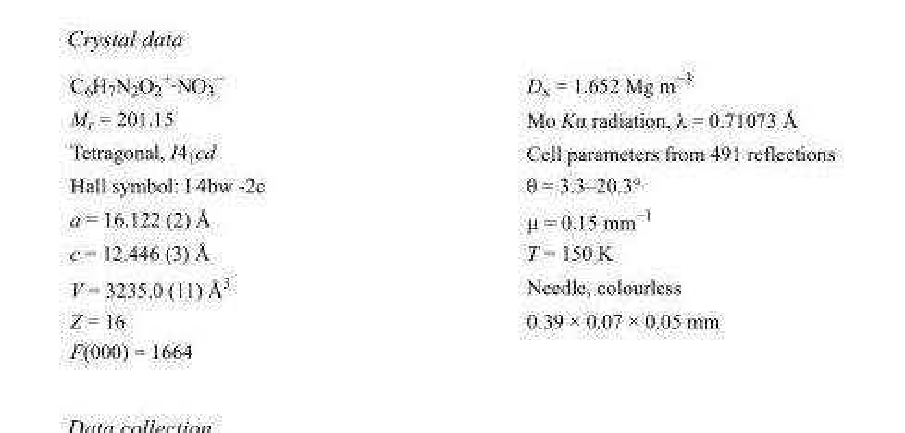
<table><tbody><tr><td>C<sub>6</sub>H<sub>7</sub>N<sub>2</sub>O<sub>2</sub> <sup>+</sup>·NO<sub>3</sub> <sup>−</sup></td><td>D<sub>x</sub> = 1.652 Mg m<sup>−3</sup></td></tr><tr><td>M<sub>r</sub> = 201.15</td><td>Mo Kα radiation, λ = 0.71073 Å</td></tr><tr><td>Tetragonal, I4<sub>1</sub>cd</td><td>Cell parameters from 491 reflections</td></tr><tr><td>Hall symbol: I 4bw -2c</td><td>θ = 3.3–20.3°</td></tr><tr><td>a = 16.122 (2) Å</td><td>µ = 0.15 mm<sup>−1</sup></td></tr><tr><td>c = 12.446 (3) Å</td><td>T = 150 K</td></tr><tr><td>V = 3235.0 (11) Å<sup>3</sup></td><td>Needle, colourless</td></tr><tr><td>Z = 16</td><td>0.39 × 0.07 × 0.05 mm</td></tr><tr><td>F(000) = 1664</td><td></td></tr></tbody></table>